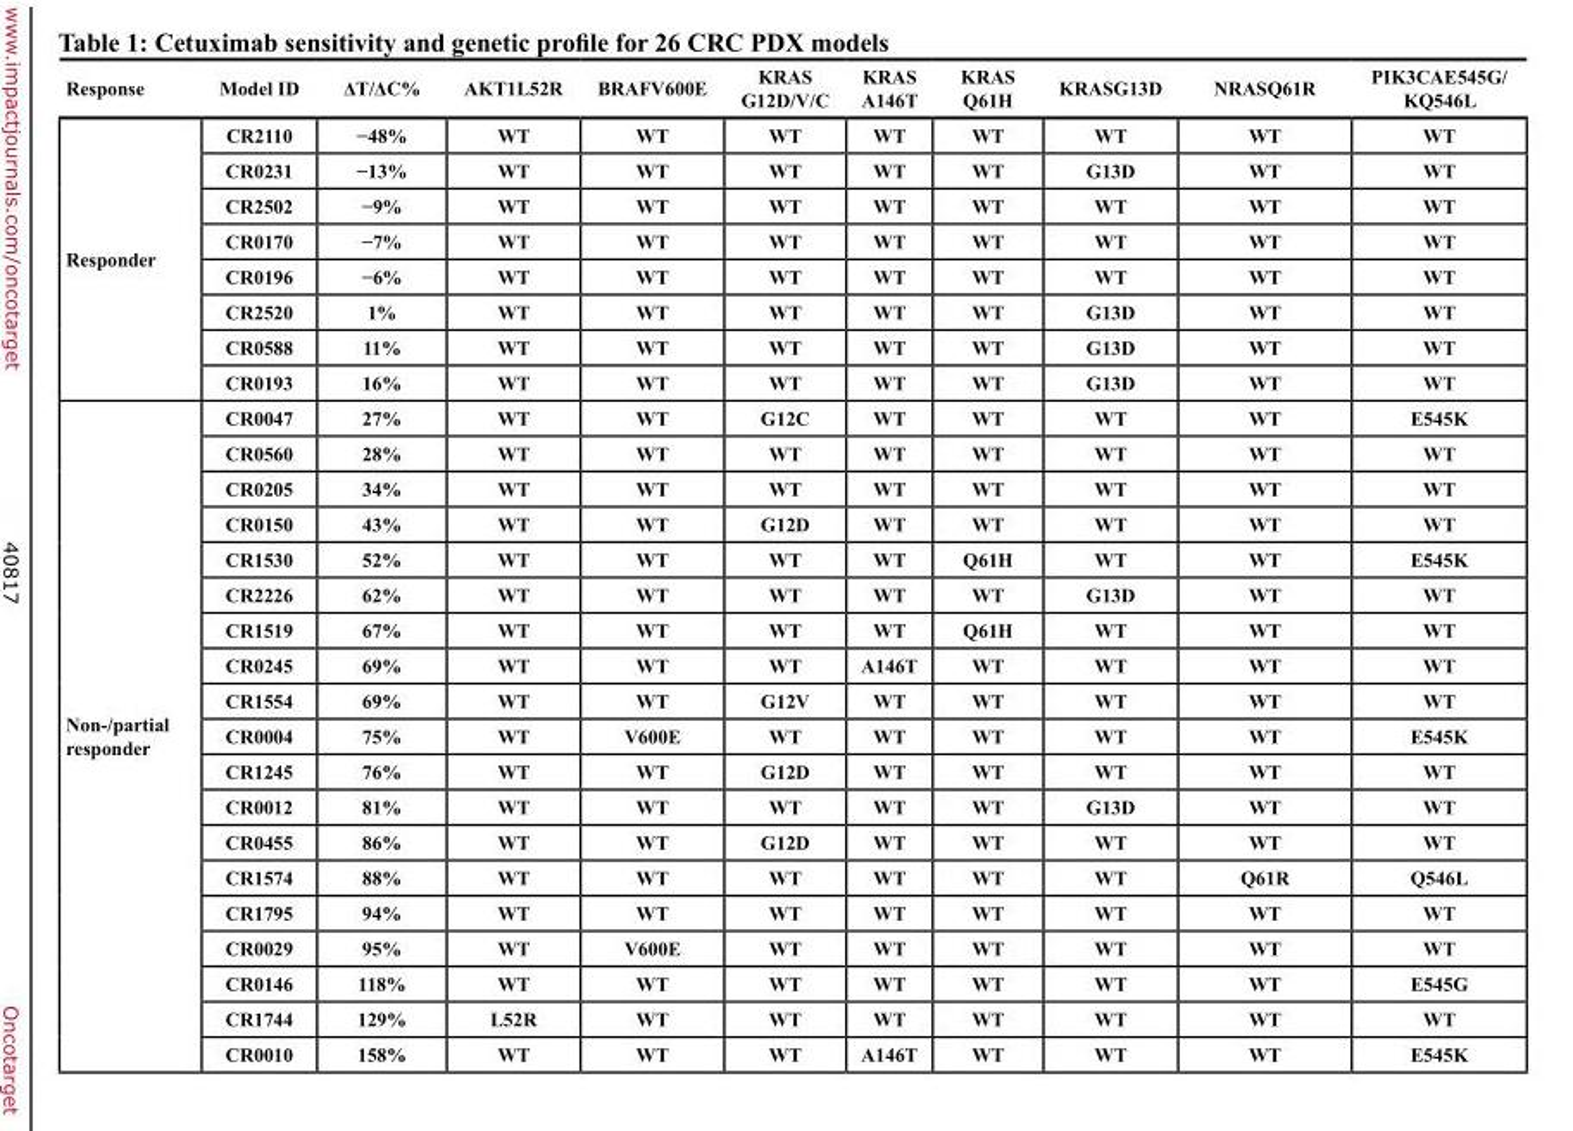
<table><thead><tr><td>Response</td><td>Model ID</td><td>ΔT/ΔC%</td><td>AKT1L52R</td><td>BRAFV600E</td><td>KRAS G12D/V/C</td><td>KRAS A146T</td><td>KRAS Q61H</td><td>KRASG13D</td><td>NRASQ61R</td><td>PIK3CAE545G/ KQ546L</td></tr></thead><tbody><tr><td rowspan="8">Responder</td><td>CR2110</td><td>−48%</td><td>WT</td><td>WT</td><td>WT</td><td>WT</td><td>WT</td><td>WT</td><td>WT</td><td>WT</td></tr><tr><td>CR0231</td><td>−13%</td><td>WT</td><td>WT</td><td>WT</td><td>WT</td><td>WT</td><td>G13D</td><td>WT</td><td>WT</td></tr><tr><td>CR2502</td><td>−9%</td><td>WT</td><td>WT</td><td>WT</td><td>WT</td><td>WT</td><td>WT</td><td>WT</td><td>WT</td></tr><tr><td>CR0170</td><td>−7%</td><td>WT</td><td>WT</td><td>WT</td><td>WT</td><td>WT</td><td>WT</td><td>WT</td><td>WT</td></tr><tr><td>CR0196</td><td>−6%</td><td>WT</td><td>WT</td><td>WT</td><td>WT</td><td>WT</td><td>WT</td><td>WT</td><td>WT</td></tr><tr><td>CR2520</td><td>1%</td><td>WT</td><td>WT</td><td>WT</td><td>WT</td><td>WT</td><td>G13D</td><td>WT</td><td>WT</td></tr><tr><td>CR0588</td><td>11%</td><td>WT</td><td>WT</td><td>WT</td><td>WT</td><td>WT</td><td>G13D</td><td>WT</td><td>WT</td></tr><tr><td>CR0193</td><td>16%</td><td>WT</td><td>WT</td><td>WT</td><td>WT</td><td>WT</td><td>G13D</td><td>WT</td><td>WT</td></tr><tr><td rowspan="19">Non-/partial responder</td><td>CR0047</td><td>27%</td><td>WT</td><td>WT</td><td>G12C</td><td>WT</td><td>WT</td><td>WT</td><td>WT</td><td>E545K</td></tr><tr><td>CR0560</td><td>28%</td><td>WT</td><td>WT</td><td>WT</td><td>WT</td><td>WT</td><td>WT</td><td>WT</td><td>WT</td></tr><tr><td>CR0205</td><td>34%</td><td>WT</td><td>WT</td><td>WT</td><td>WT</td><td>WT</td><td>WT</td><td>WT</td><td>WT</td></tr><tr><td>CR0150</td><td>43%</td><td>WT</td><td>WT</td><td>G12D</td><td>WT</td><td>WT</td><td>WT</td><td>WT</td><td>WT</td></tr><tr><td>CR1530</td><td>52%</td><td>WT</td><td>WT</td><td>WT</td><td>WT</td><td>Q61H</td><td>WT</td><td>WT</td><td>E545K</td></tr><tr><td>CR2226</td><td>62%</td><td>WT</td><td>WT</td><td>WT</td><td>WT</td><td>WT</td><td>G13D</td><td>WT</td><td>WT</td></tr><tr><td>CR1519</td><td>67%</td><td>WT</td><td>WT</td><td>WT</td><td>WT</td><td>Q61H</td><td>WT</td><td>WT</td><td>WT</td></tr><tr><td>CR0245</td><td>69%</td><td>WT</td><td>WT</td><td>WT</td><td>A146T</td><td>WT</td><td>WT</td><td>WT</td><td>WT</td></tr><tr><td>CR1554</td><td>69%</td><td>WT</td><td>WT</td><td>G12V</td><td>WT</td><td>WT</td><td>WT</td><td>WT</td><td>WT</td></tr><tr><td>CR0004</td><td>75%</td><td>WT</td><td>V600E</td><td>WT</td><td>WT</td><td>WT</td><td>WT</td><td>WT</td><td>E545K</td></tr><tr><td>CR1245</td><td>76%</td><td>WT</td><td>WT</td><td>G12D</td><td>WT</td><td>WT</td><td>WT</td><td>WT</td><td>WT</td></tr><tr><td>CR0012</td><td>81%</td><td>WT</td><td>WT</td><td>WT</td><td>WT</td><td>WT</td><td>G13D</td><td>WT</td><td>WT</td></tr><tr><td>CR0455</td><td>86%</td><td>WT</td><td>WT</td><td>G12D</td><td>WT</td><td>WT</td><td>WT</td><td>WT</td><td>WT</td></tr><tr><td>CR1574</td><td>88%</td><td>WT</td><td>WT</td><td>WT</td><td>WT</td><td>WT</td><td>WT</td><td>Q61R</td><td>Q546L</td></tr><tr><td>CR1795</td><td>94%</td><td>WT</td><td>WT</td><td>WT</td><td>WT</td><td>WT</td><td>WT</td><td>WT</td><td>WT</td></tr><tr><td>CR0029</td><td>95%</td><td>WT</td><td>V600E</td><td>WT</td><td>WT</td><td>WT</td><td>WT</td><td>WT</td><td>WT</td></tr><tr><td>CR0146</td><td>118%</td><td>WT</td><td>WT</td><td>WT</td><td>WT</td><td>WT</td><td>WT</td><td>WT</td><td>E545G</td></tr><tr><td>CR1744</td><td>129%</td><td>L52R</td><td>WT</td><td>WT</td><td>WT</td><td>WT</td><td>WT</td><td>WT</td><td>WT</td></tr><tr><td>CR0010</td><td>158%</td><td>WT</td><td>WT</td><td>WT</td><td>A146T</td><td>WT</td><td>WT</td><td>WT</td><td>E545K</td></tr></tbody></table>